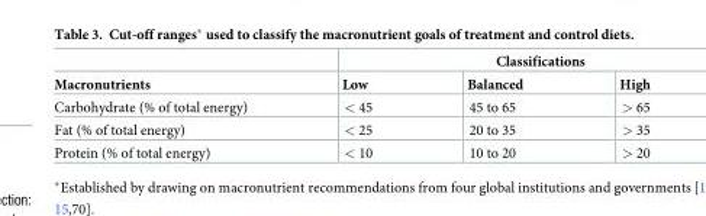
<table><thead><tr><td rowspan="2">Macronutrients</td><td colspan="3">Classifications</td></tr><tr><td>Low</td><td>Balanced</td><td>High</td></tr></thead><tbody><tr><td>Carbohydrate (% of total energy)</td><td>&lt; 45</td><td>45 to 65</td><td>&gt; 65</td></tr><tr><td>Fat (% of total energy)</td><td>&lt; 25</td><td>20 to 35</td><td>&gt; 35</td></tr><tr><td>Protein (% of total energy)</td><td>&lt; 10</td><td>10 to 20</td><td>&gt; 20</td></tr></tbody></table>